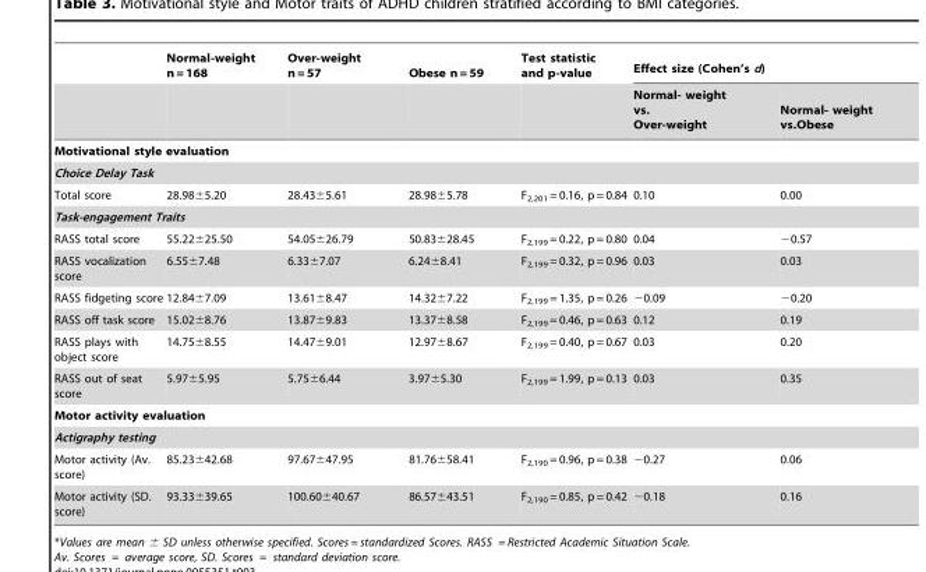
<table><thead><tr><td rowspan="2"></td><td rowspan="2">Normal-weight n = 168</td><td rowspan="2">Over-weight n = 57</td><td rowspan="2">Obese n = 59</td><td rowspan="2">Test statistic and p-value</td><td colspan="2">Effect size (Cohen’s d)</td></tr><tr><td>Normal- weight vs. Over-weight</td><td>Normal- weight vs.Obese</td></tr></thead><tbody><tr><td colspan="7">Motivational style evaluation</td></tr><tr><td colspan="7">Choice Delay Task</td></tr><tr><td>Total score</td><td>28.98±5.20</td><td>28.43±5.61</td><td>28.98±5.78</td><td>F<sub>2,201</sub> = 0.16, p = 0.84</td><td>0.10</td><td>0.00</td></tr><tr><td colspan="7">Task-engagement Traits</td></tr><tr><td>RASS total score</td><td>55.22±25.50</td><td>54.05±26.79</td><td>50.83±28.45</td><td>F<sub>2,199</sub> = 0.22, p = 0.80</td><td>0.04</td><td>−0.57</td></tr><tr><td>RASS vocalization score</td><td>6.55±7.48</td><td>6.33±7.07</td><td>6.24±8.41</td><td>F<sub>2,199</sub> = 0.32, p = 0.96</td><td>0.03</td><td>0.03</td></tr><tr><td>RASS fidgeting score</td><td>12.84±7.09</td><td>13.61±8.47</td><td>14.32±7.22</td><td>F<sub>2,199</sub> = 1.35, p = 0.26</td><td>−0.09</td><td>−0.20</td></tr><tr><td>RASS off task score</td><td>15.02±8.76</td><td>13.87±9.83</td><td>13.37±8.58</td><td>F<sub>2,199</sub> = 0.46, p = 0.63</td><td>0.12</td><td>0.19</td></tr><tr><td>RASS plays with object score</td><td>14.75±8.55</td><td>14.47±9.01</td><td>12.97±8.67</td><td>F<sub>2,199</sub> = 0.40, p = 0.67</td><td>0.03</td><td>0.20</td></tr><tr><td>RASS out of seat score</td><td>5.97±5.95</td><td>5.75±6.44</td><td>3.97±5.30</td><td>F<sub>2,199</sub> = 1.99, p = 0.13</td><td>0.03</td><td>0.35</td></tr><tr><td colspan="7">Motor activity evaluation</td></tr><tr><td colspan="7">Actigraphy testing</td></tr><tr><td>Motor activity (Av. score)</td><td>85.23±42.68</td><td>97.67±47.95</td><td>81.76±58.41</td><td>F<sub>2,190</sub> = 0.96, p = 0.38</td><td>−0.27</td><td>0.06</td></tr><tr><td>Motor activity (SD. score)</td><td>93.33±39.65</td><td>100.60±40.67</td><td>86.57±43.51</td><td>F<sub>2,190</sub> = 0.85, p = 0.42</td><td>−0.18</td><td>0.16</td></tr></tbody></table>